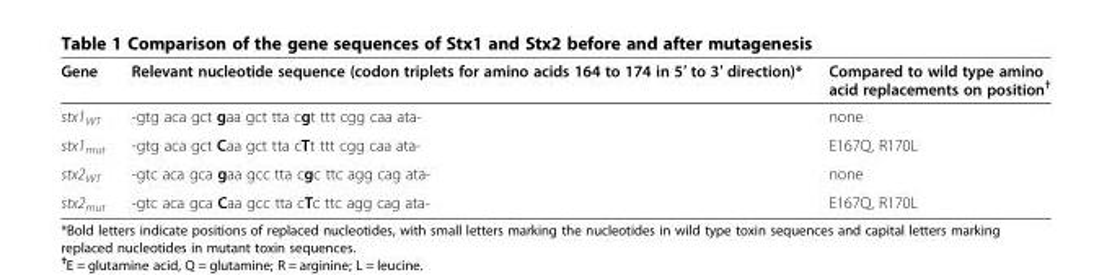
<table><thead><tr><td>Gene</td><td>Relevant nucleotide sequence (codon triplets for amino acids 164 to 174 in 5′ to 3′ direction)*</td><td>Compared to wild type amino acid replacements on position<sup>†</sup></td></tr></thead><tbody><tr><td>stx1<sub>WT</sub></td><td>-gtg aca gct gaa gct tta cgt ttt cgg caa ata-</td><td>none</td></tr><tr><td>stx1<sub>mut</sub></td><td>-gtg aca gct Caa gct tta cTt ttt cgg caa ata-</td><td>E167Q, R170L</td></tr><tr><td>stx2<sub>WT</sub></td><td>-gtc aca gca gaa gcc tta cgc ttc agg cag ata-</td><td>none</td></tr><tr><td>stx2<sub>mut</sub></td><td>-gtc aca gca Caa gcc tta cTc ttc agg cag ata-</td><td>E167Q, R170L</td></tr></tbody></table>